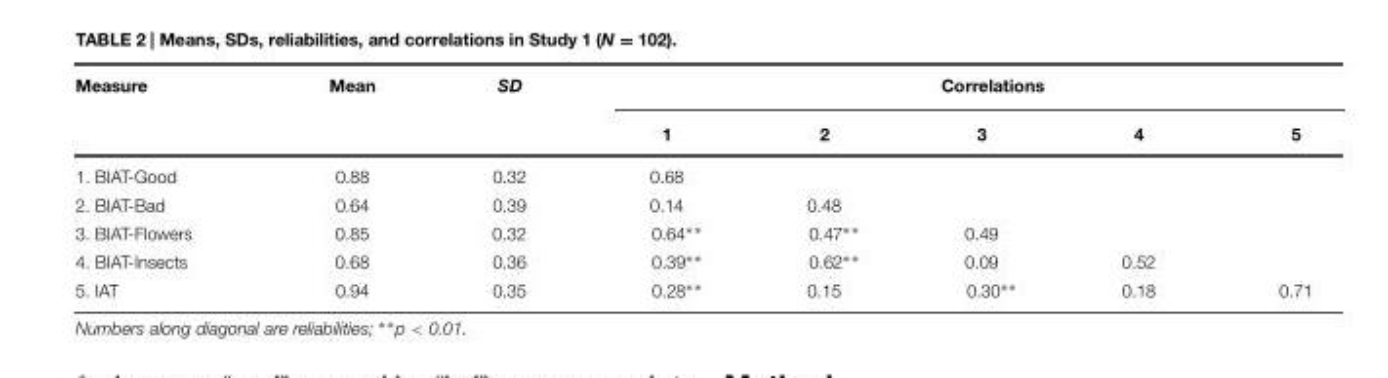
<table><thead><tr><td rowspan="2">Measure</td><td rowspan="2">Mean</td><td rowspan="2">SD</td><td colspan="4">Correlations</td><td rowspan="2">5</td></tr><tr><td>1</td><td>2</td><td>3</td><td>4</td></tr></thead><tbody><tr><td>1. BIAT-Good</td><td>0.88</td><td>0.32</td><td>0.68</td><td></td><td></td><td></td><td></td></tr><tr><td>2. BIAT-Bad</td><td>0.64</td><td>0.39</td><td>0.14</td><td>0.48</td><td></td><td></td><td></td></tr><tr><td>3. BIAT-Flowers</td><td>0.85</td><td>0.32</td><td>0.64∗∗</td><td>0.47∗∗</td><td>0.49</td><td></td><td></td></tr><tr><td>4. BIAT-Insects</td><td>0.68</td><td>0.36</td><td>0.39∗∗</td><td>0.62∗∗</td><td>0.09</td><td>0.52</td><td></td></tr><tr><td>5. IAT</td><td>0.94</td><td>0.35</td><td>0.28∗∗</td><td>0.15</td><td>0.30∗∗</td><td>0.18</td><td>0.71</td></tr></tbody></table>